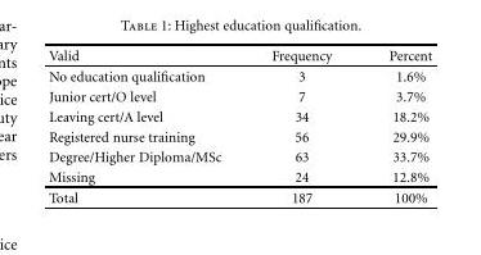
<table><thead><tr><td>Valid</td><td>Frequency</td><td>Percent</td></tr></thead><tbody><tr><td>No education qualification</td><td>3</td><td>1.6%</td></tr><tr><td>Junior cert/O level</td><td>7</td><td>3.7%</td></tr><tr><td>Leaving cert/A level</td><td>34</td><td>18.2%</td></tr><tr><td>Registered nurse training</td><td>56</td><td>29.9%</td></tr><tr><td>Degree/Higher Diploma/MSc</td><td>63</td><td>33.7%</td></tr><tr><td>Missing</td><td>24</td><td>12.8%</td></tr><tr><td>Total</td><td>187</td><td>100%</td></tr></tbody></table>